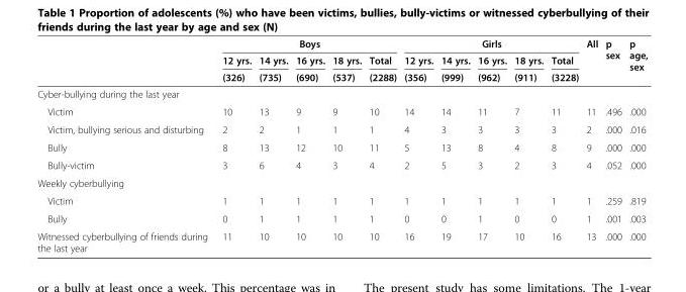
<table><thead><tr><td rowspan="3"></td><td rowspan="3">12 yrs. (326)</td><td rowspan="3">14 yrs. (735)</td><td rowspan="3">Boys 16 yrs. (690)</td><td rowspan="3">18 yrs. (537)</td><td rowspan="3">Total (2288)</td><td rowspan="3">12 yrs. (356)</td><td rowspan="3">14 yrs. (999)</td><td rowspan="3">Girls 16 yrs. (962)</td><td rowspan="3">18 yrs. (911)</td><td rowspan="3">Total (3228)</td><td rowspan="3">All</td><td rowspan="3">p sex</td><td rowspan="3">p age, sex</td></tr><tr></tr><tr></tr></thead><tbody><tr><td colspan="14">Cyber-bullying during the last year</td></tr><tr><td>Victim</td><td>10</td><td>13</td><td>9</td><td>9</td><td>10</td><td>14</td><td>14</td><td>11</td><td>7</td><td>11</td><td>11</td><td>.496</td><td>.000</td></tr><tr><td>Victim, bullying serious and disturbing</td><td>2</td><td>2</td><td>1</td><td>1</td><td>1</td><td>4</td><td>3</td><td>3</td><td>3</td><td>3</td><td>2</td><td>.000</td><td>.016</td></tr><tr><td>Bully</td><td>8</td><td>13</td><td>12</td><td>10</td><td>11</td><td>5</td><td>13</td><td>8</td><td>4</td><td>8</td><td>9</td><td>.000</td><td>.000</td></tr><tr><td>Bully-victim</td><td>3</td><td>6</td><td>4</td><td>3</td><td>4</td><td>2</td><td>5</td><td>3</td><td>2</td><td>3</td><td>4</td><td>.052</td><td>.000</td></tr><tr><td colspan="14">Weekly cyberbullying</td></tr><tr><td>Victim</td><td>1</td><td>1</td><td>1</td><td>1</td><td>1</td><td>1</td><td>1</td><td>1</td><td>1</td><td>1</td><td>1</td><td>.259</td><td>.819</td></tr><tr><td>Bully</td><td>0</td><td>1</td><td>1</td><td>1</td><td>1</td><td>0</td><td>0</td><td>1</td><td>0</td><td>0</td><td>1</td><td>.001</td><td>.003</td></tr><tr><td>Witnessed cyberbullying of friends during the last year</td><td>11</td><td>10</td><td>10</td><td>10</td><td>10</td><td>16</td><td>19</td><td>17</td><td>10</td><td>16</td><td>13</td><td>.000</td><td>.000</td></tr></tbody></table>